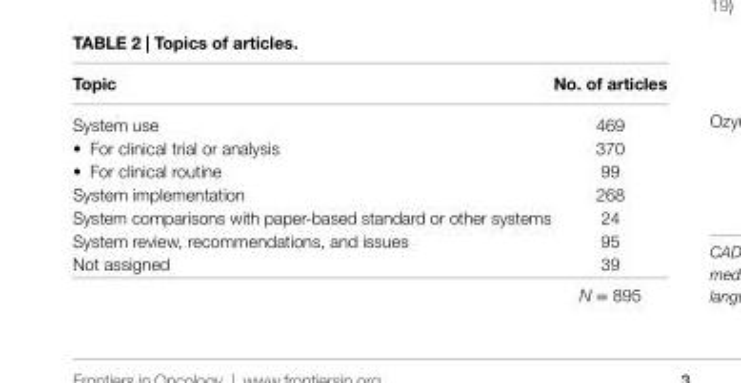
<table><thead><tr><td>Topic</td><td>No. of articles</td></tr></thead><tbody><tr><td>System use</td><td>469</td></tr><tr><td>• For clinical trial or analysis</td><td>370</td></tr><tr><td>• For clinical routine</td><td>99</td></tr><tr><td>System implementation</td><td>268</td></tr><tr><td>System comparisons with paper-based standard or other systems</td><td>24</td></tr><tr><td>System review, recommendations, and issues</td><td>95</td></tr><tr><td rowspan="2">Not assigned</td><td>39</td></tr><tr><td>N = 895</td></tr></tbody></table>